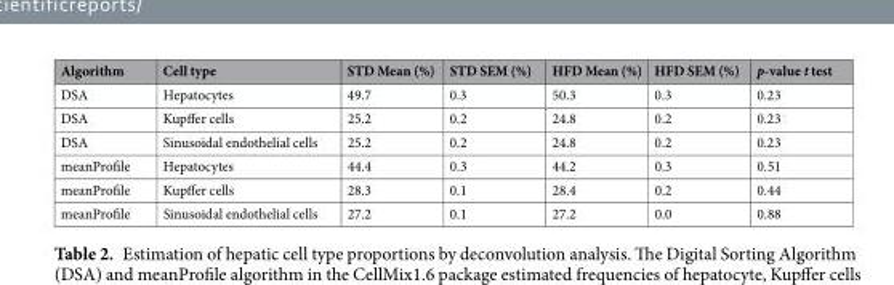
<table><thead><tr><td>Algorithm</td><td>Cell type</td><td>STD Mean (%)</td><td>STD SEM (%)</td><td>HFD Mean (%)</td><td>HFD SEM (%)</td><td>p-value t test</td></tr></thead><tbody><tr><td>DSA</td><td>Hepatocytes</td><td>49.7</td><td>0.3</td><td>50.3</td><td>0.3</td><td>0.23</td></tr><tr><td>DSA</td><td>Kupffer cells</td><td>25.2</td><td>0.2</td><td>24.8</td><td>0.2</td><td>0.23</td></tr><tr><td>DSA</td><td>Sinusoidal endothelial cells</td><td>25.2</td><td>0.2</td><td>24.8</td><td>0.2</td><td>0.23</td></tr><tr><td>meanProfile</td><td>Hepatocytes</td><td>44.4</td><td>0.3</td><td>44.2</td><td>0.3</td><td>0.51</td></tr><tr><td>meanProfile</td><td>Kupffer cells</td><td>28.3</td><td>0.1</td><td>28.4</td><td>0.2</td><td>0.44</td></tr><tr><td>meanProfile</td><td>Sinusoidal endothelial cells</td><td>27.2</td><td>0.1</td><td>27.2</td><td>0.0</td><td>0.88</td></tr></tbody></table>